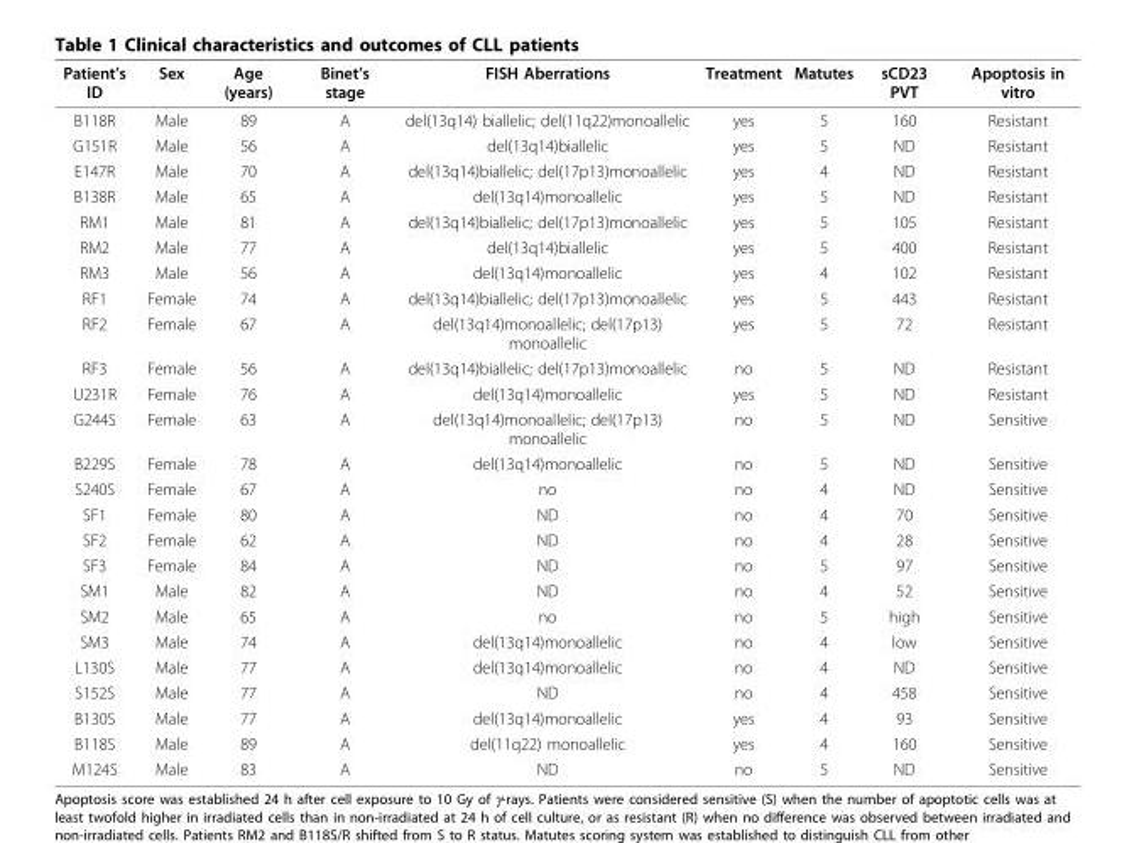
<table><thead><tr><td>Patient’s ID</td><td>Sex</td><td>Age (years)</td><td>Binet’s stage</td><td>FISH Aberrations</td><td>Treatment</td><td>Matutes</td><td>sCD23 PVT</td><td>Apoptosis in vitro</td></tr></thead><tbody><tr><td>B118R</td><td>Male</td><td>89</td><td>A</td><td>del(13q14) biallelic; del(11q22)monoallelic</td><td>yes</td><td>5</td><td>160</td><td>Resistant</td></tr><tr><td>G151R</td><td>Male</td><td>56</td><td>A</td><td>del(13q14)biallelic</td><td>yes</td><td>5</td><td>ND</td><td>Resistant</td></tr><tr><td>E147R</td><td>Male</td><td>70</td><td>A</td><td>del(13q14)biallelic; del(17p13)monoallelic</td><td>yes</td><td>4</td><td>ND</td><td>Resistant</td></tr><tr><td>B138R</td><td>Male</td><td>65</td><td>A</td><td>del(13q14)monoallelic</td><td>yes</td><td>5</td><td>ND</td><td>Resistant</td></tr><tr><td>RM1</td><td>Male</td><td>81</td><td>A</td><td>del(13q14)biallelic; del(17p13)monoallelic</td><td>yes</td><td>5</td><td>105</td><td>Resistant</td></tr><tr><td>RM2</td><td>Male</td><td>77</td><td>A</td><td>del(13q14)biallelic</td><td>yes</td><td>5</td><td>400</td><td>Resistant</td></tr><tr><td>RM3</td><td>Male</td><td>56</td><td>A</td><td>del(13q14)monoallelic</td><td>yes</td><td>4</td><td>102</td><td>Resistant</td></tr><tr><td>RF1</td><td>Female</td><td>74</td><td>A</td><td>del(13q14)biallelic; del(17p13)monoallelic</td><td>yes</td><td>5</td><td>443</td><td>Resistant</td></tr><tr><td>RF2</td><td>Female</td><td>67</td><td>A</td><td>del(13q14)monoallelic; del(17p13) monoallelic</td><td>yes</td><td>5</td><td>72</td><td>Resistant</td></tr><tr><td>RF3</td><td>Female</td><td>56</td><td>A</td><td>del(13q14)biallelic; del(17p13)monoallelic</td><td>no</td><td>5</td><td>ND</td><td>Resistant</td></tr><tr><td>U231R</td><td>Female</td><td>76</td><td>A</td><td>del(13q14)monoallelic</td><td>yes</td><td>5</td><td>ND</td><td>Resistant</td></tr><tr><td>G244S</td><td>Female</td><td>63</td><td>A</td><td>del(13q14)monoallelic; del(17p13) monoallelic</td><td>no</td><td>5</td><td>ND</td><td>Sensitive</td></tr><tr><td>B229S</td><td>Female</td><td>78</td><td>A</td><td>del(13q14)monoallelic</td><td>no</td><td>5</td><td>ND</td><td>Sensitive</td></tr><tr><td>S240S</td><td>Female</td><td>67</td><td>A</td><td>no</td><td>no</td><td>4</td><td>ND</td><td>Sensitive</td></tr><tr><td>SF1</td><td>Female</td><td>80</td><td>A</td><td>ND</td><td>no</td><td>4</td><td>70</td><td>Sensitive</td></tr><tr><td>SF2</td><td>Female</td><td>62</td><td>A</td><td>ND</td><td>no</td><td>4</td><td>28</td><td>Sensitive</td></tr><tr><td>SF3</td><td>Female</td><td>84</td><td>A</td><td>ND</td><td>no</td><td>5</td><td>97</td><td>Sensitive</td></tr><tr><td>SM1</td><td>Male</td><td>82</td><td>A</td><td>ND</td><td>no</td><td>4</td><td>52</td><td>Sensitive</td></tr><tr><td>SM2</td><td>Male</td><td>65</td><td>A</td><td>no</td><td>no</td><td>5</td><td>high</td><td>Sensitive</td></tr><tr><td>SM3</td><td>Male</td><td>74</td><td>A</td><td>del(13q14)monoallelic</td><td>no</td><td>4</td><td>low</td><td>Sensitive</td></tr><tr><td>L130S</td><td>Male</td><td>77</td><td>A</td><td>del(13q14)monoallelic</td><td>no</td><td>4</td><td>ND</td><td>Sensitive</td></tr><tr><td>S152S</td><td>Male</td><td>77</td><td>A</td><td>ND</td><td>no</td><td>4</td><td>458</td><td>Sensitive</td></tr><tr><td>B130S</td><td>Male</td><td>77</td><td>A</td><td>del(13q14)monoallelic</td><td>yes</td><td>4</td><td>93</td><td>Sensitive</td></tr><tr><td>B118S</td><td>Male</td><td>89</td><td>A</td><td>del(11q22) monoallelic</td><td>yes</td><td>4</td><td>160</td><td>Sensitive</td></tr><tr><td>M124S</td><td>Male</td><td>83</td><td>A</td><td>ND</td><td>no</td><td>5</td><td>ND</td><td>Sensitive</td></tr></tbody></table>